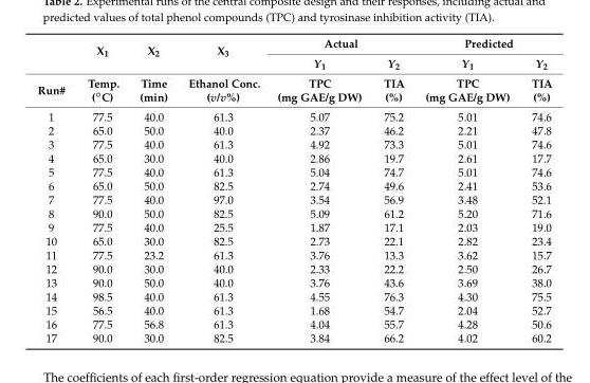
<table><thead><tr><td rowspan="3">Run#</td><td rowspan="3">X1 Temp. (◦C)</td><td rowspan="3">X<sub>2</sub> Time (min)</td><td rowspan="3">X<sub>3</sub> Ethanol Conc. (v/v%)</td><td colspan="2">Actual</td><td colspan="2">Predicted</td></tr><tr><td rowspan="2">Y<sub>1</sub> TPC (mg GAE/g DW)</td><td rowspan="2">Y<sub>2</sub> TIA (%)</td><td rowspan="2">Y<sub>1</sub> TPC (mg GAE/g DW)</td><td rowspan="2">Y<sub>2</sub> TIA (%)</td></tr><tr></tr></thead><tbody><tr><td>1</td><td>77.5</td><td>40.0</td><td>61.3</td><td>5.07</td><td>75.2</td><td>5.01</td><td>74.6</td></tr><tr><td>2</td><td>65.0</td><td>50.0</td><td>40.0</td><td>2.37</td><td>46.2</td><td>2.21</td><td>47.8</td></tr><tr><td>3</td><td>77.5</td><td>40.0</td><td>61.3</td><td>4.92</td><td>73.3</td><td>5.01</td><td>74.6</td></tr><tr><td>4</td><td>65.0</td><td>30.0</td><td>40.0</td><td>2.86</td><td>19.7</td><td>2.61</td><td>17.7</td></tr><tr><td>5</td><td>77.5</td><td>40.0</td><td>61.3</td><td>5.04</td><td>74.7</td><td>5.01</td><td>74.6</td></tr><tr><td>6</td><td>65.0</td><td>50.0</td><td>82.5</td><td>2.74</td><td>49.6</td><td>2.41</td><td>53.6</td></tr><tr><td>7</td><td>77.5</td><td>40.0</td><td>97.0</td><td>3.54</td><td>56.9</td><td>3.48</td><td>52.1</td></tr><tr><td>8</td><td>90.0</td><td>50.0</td><td>82.5</td><td>5.09</td><td>61.2</td><td>5.20</td><td>71.6</td></tr><tr><td>9</td><td>77.5</td><td>40.0</td><td>25.5</td><td>1.87</td><td>17.1</td><td>2.03</td><td>19.0</td></tr><tr><td>10</td><td>65.0</td><td>30.0</td><td>82.5</td><td>2.73</td><td>22.1</td><td>2.82</td><td>23.4</td></tr><tr><td>11</td><td>77.5</td><td>23.2</td><td>61.3</td><td>3.76</td><td>13.3</td><td>3.62</td><td>15.7</td></tr><tr><td>12</td><td>90.0</td><td>30.0</td><td>40.0</td><td>2.33</td><td>22.2</td><td>2.50</td><td>26.7</td></tr><tr><td>13</td><td>90.0</td><td>50.0</td><td>40.0</td><td>3.76</td><td>43.6</td><td>3.69</td><td>38.0</td></tr><tr><td>14</td><td>98.5</td><td>40.0</td><td>61.3</td><td>4.55</td><td>76.3</td><td>4.30</td><td>75.5</td></tr><tr><td>15</td><td>56.5</td><td>40.0</td><td>61.3</td><td>1.68</td><td>54.7</td><td>2.04</td><td>52.7</td></tr><tr><td>16</td><td>77.5</td><td>56.8</td><td>61.3</td><td>4.04</td><td>55.7</td><td>4.28</td><td>50.6</td></tr><tr><td>17</td><td>90.0</td><td>30.0</td><td>82.5</td><td>3.84</td><td>66.2</td><td>4.02</td><td>60.2</td></tr></tbody></table>